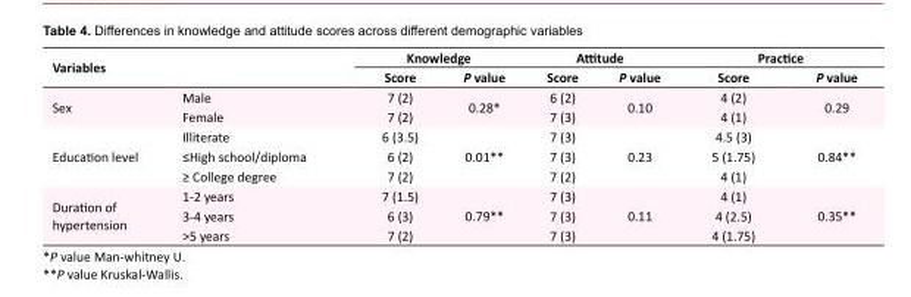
<table><tbody><tr><td rowspan="2">Variables</td><td rowspan="2"></td><td colspan="2">Knowledge</td><td colspan="2">Attitude</td><td colspan="2">Practice</td></tr><tr><td>Score</td><td>P value</td><td>Score</td><td>P value</td><td>Score</td><td>P value</td></tr><tr><td rowspan="2">Sex</td><td>Male</td><td>7 (2)</td><td rowspan="2">0.28*</td><td>6 (2)</td><td rowspan="2">0.10</td><td>4 (2)</td><td rowspan="2">0.29</td></tr><tr><td>Female</td><td>7 (2)</td><td>7 (3)</td><td>4 (1)</td></tr><tr><td rowspan="3">Education level</td><td>Illiterate</td><td>6 (3.5)</td><td rowspan="3">0.01**</td><td>7 (3)</td><td rowspan="3">0.23</td><td>4.5 (3)</td><td rowspan="3">0.84**</td></tr><tr><td>≤High school/diploma</td><td>6 (2)</td><td>7 (3)</td><td>5 (1.75)</td></tr><tr><td>≥ College degree</td><td>7 (2)</td><td>7 (2)</td><td>4 (1)</td></tr><tr><td rowspan="3">Duration of hypertension</td><td>1-2 years</td><td>7 (1.5)</td><td rowspan="3">0.79**</td><td>7 (3)</td><td rowspan="3">0.11</td><td>4 (1)</td><td rowspan="3">0.35**</td></tr><tr><td>3-4 years</td><td>6 (3)</td><td>7 (3)</td><td>4 (2.5)</td></tr><tr><td>&gt;5 years</td><td>7 (2)</td><td>7 (3)</td><td>4 (1.75)</td></tr></tbody></table>